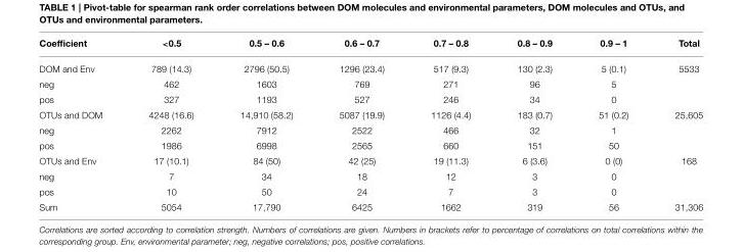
<table><thead><tr><td>Coefficient</td><td>&lt;0.5</td><td>0.5 – 0.6</td><td>0.6 – 0.7</td><td>0.7 – 0.8</td><td>0.8 – 0.9</td><td>0.9 – 1</td><td>Total</td></tr></thead><tbody><tr><td>DOM and Env</td><td>789 (14.3)</td><td>2796 (50.5)</td><td>1296 (23.4)</td><td>517 (9.3)</td><td>130 (2.3)</td><td>5 (0.1)</td><td>5533</td></tr><tr><td>neg</td><td>462</td><td>1603</td><td>769</td><td>271</td><td>96</td><td>5</td><td></td></tr><tr><td>pos</td><td>327</td><td>1193</td><td>527</td><td>246</td><td>34</td><td>0</td><td></td></tr><tr><td>OTUs and DOM</td><td>4248 (16.6)</td><td>14,910 (58.2)</td><td>5087 (19.9)</td><td>1126 (4.4)</td><td>183 (0.7)</td><td>51 (0.2)</td><td>25,605</td></tr><tr><td>neg</td><td>2262</td><td>7912</td><td>2522</td><td>466</td><td>32</td><td>1</td><td></td></tr><tr><td>pos</td><td>1986</td><td>6998</td><td>2565</td><td>660</td><td>151</td><td>50</td><td></td></tr><tr><td>OTUs and Env</td><td>17 (10.1)</td><td>84 (50)</td><td>42 (25)</td><td>19 (11.3)</td><td>6 (3.6)</td><td>0 (0)</td><td>168</td></tr><tr><td>neg</td><td>7</td><td>34</td><td>18</td><td>12</td><td>3</td><td>0</td><td></td></tr><tr><td>pos</td><td>10</td><td>50</td><td>24</td><td>7</td><td>3</td><td>0</td><td></td></tr><tr><td>Sum</td><td>5054</td><td>17,790</td><td>6425</td><td>1662</td><td>319</td><td>56</td><td>31,306</td></tr></tbody></table>